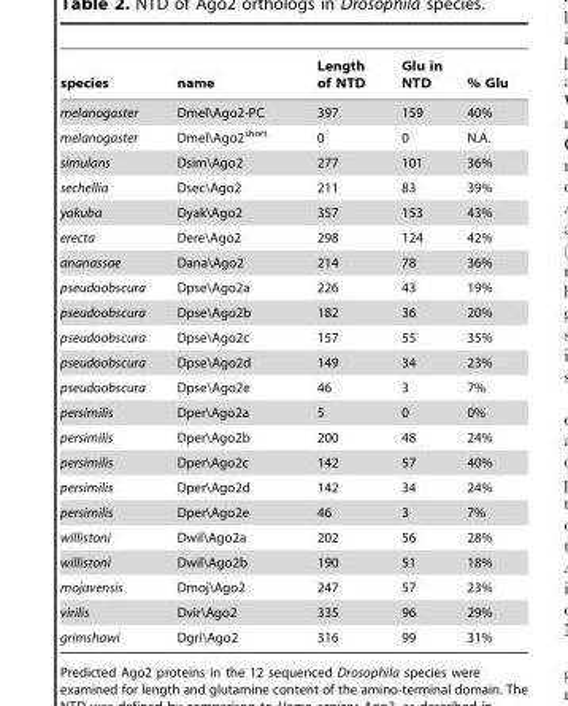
<table><thead><tr><td>species</td><td>name</td><td>Length of NTD</td><td>Glu in NTD</td><td>% Glu</td></tr></thead><tbody><tr><td>melanogaster</td><td>Dmel\Ago2-PC</td><td>397</td><td>159</td><td>40%</td></tr><tr><td>melanogaster</td><td>Dmel\Ago2<sup>short</sup></td><td>0</td><td>0</td><td>N.A.</td></tr><tr><td>simulans</td><td>Dsim\Ago2</td><td>277</td><td>101</td><td>36%</td></tr><tr><td>sechellia</td><td>Dsec\Ago2</td><td>211</td><td>83</td><td>39%</td></tr><tr><td>yakuba</td><td>Dyak\Ago2</td><td>357</td><td>153</td><td>43%</td></tr><tr><td>erecta</td><td>Dere\Ago2</td><td>298</td><td>124</td><td>42%</td></tr><tr><td>ananassae</td><td>Dana\Ago2</td><td>214</td><td>78</td><td>36%</td></tr><tr><td>pseudoobscura</td><td>Dpse\Ago2a</td><td>226</td><td>43</td><td>19%</td></tr><tr><td>pseudoobscura</td><td>Dpse\Ago2b</td><td>182</td><td>36</td><td>20%</td></tr><tr><td>pseudoobscura</td><td>Dpse\Ago2c</td><td>157</td><td>55</td><td>35%</td></tr><tr><td>pseudoobscura</td><td>Dpse\Ago2d</td><td>149</td><td>34</td><td>23%</td></tr><tr><td>pseudoobscura</td><td>Dpse\Ago2e</td><td>46</td><td>3</td><td>7%</td></tr><tr><td>persimilis</td><td>Dper\Ago2a</td><td>5</td><td>0</td><td>0%</td></tr><tr><td>persimilis</td><td>Dper\Ago2b</td><td>200</td><td>48</td><td>24%</td></tr><tr><td>persimilis</td><td>Dper\Ago2c</td><td>142</td><td>57</td><td>40%</td></tr><tr><td>persimilis</td><td>Dper\Ago2d</td><td>142</td><td>34</td><td>24%</td></tr><tr><td>persimilis</td><td>Dper\Ago2e</td><td>46</td><td>3</td><td>7%</td></tr><tr><td>willistoni</td><td>Dwil\Ago2a</td><td>202</td><td>56</td><td>28%</td></tr><tr><td>willistoni</td><td>Dwil\Ago2b</td><td>190</td><td>51</td><td>18%</td></tr><tr><td>mojavensis</td><td>Dmoj\Ago2</td><td>247</td><td>57</td><td>23%</td></tr><tr><td>virilis</td><td>Dvir\Ago2</td><td>335</td><td>96</td><td>29%</td></tr><tr><td>grimshawi</td><td>Dgri\Ago2</td><td>316</td><td>99</td><td>31%</td></tr></tbody></table>